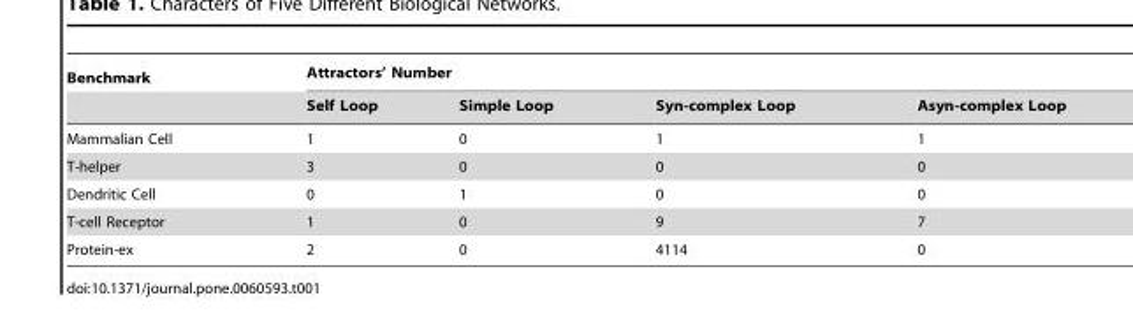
<table><thead><tr><td rowspan="2">Benchmark</td><td colspan="4">Attractors’ Number</td></tr><tr><td>Self Loop</td><td>Simple Loop</td><td>Syn-complex Loop</td><td>Asyn-complex Loop</td></tr></thead><tbody><tr><td>Mammalian Cell</td><td>1</td><td>0</td><td>1</td><td>1</td></tr><tr><td>T-helper</td><td>3</td><td>0</td><td>0</td><td>0</td></tr><tr><td>Dendritic Cell</td><td>0</td><td>1</td><td>0</td><td>0</td></tr><tr><td>T-cell Receptor</td><td>1</td><td>0</td><td>9</td><td>7</td></tr><tr><td>Protein-ex</td><td>2</td><td>0</td><td>4114</td><td>0</td></tr></tbody></table>